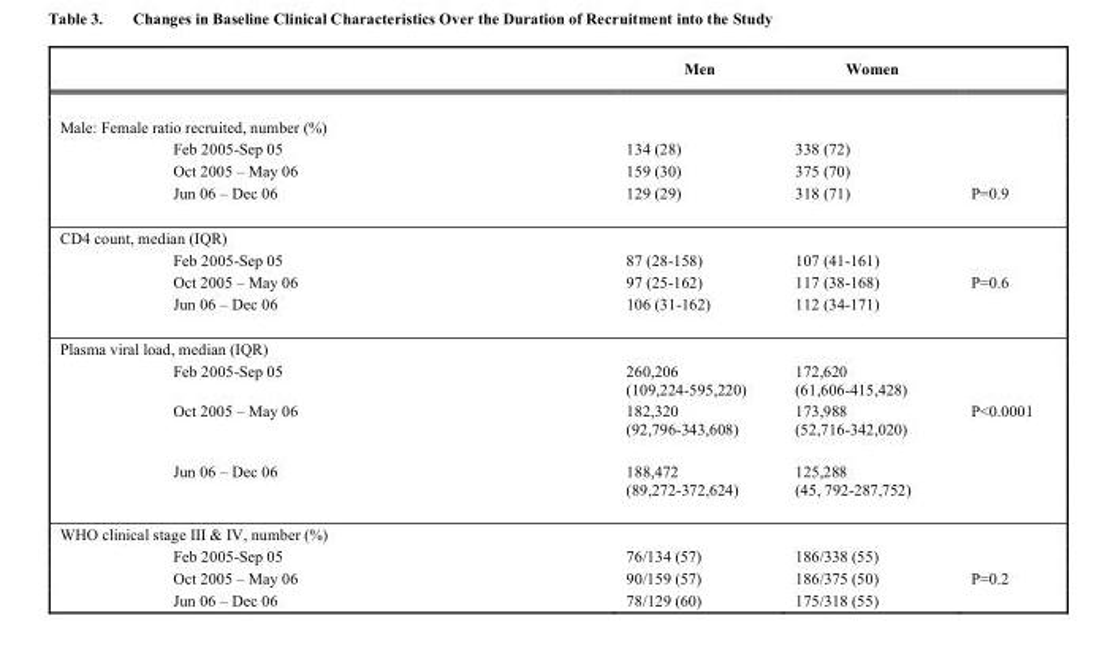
<table><thead><tr><td></td><td>Men</td><td>Women</td><td></td></tr></thead><tbody><tr><td colspan="4">Male: Female ratio recruited, number (%)</td></tr><tr><td>Feb 2005-Sep 05</td><td>134 (28)</td><td>338 (72)</td><td></td></tr><tr><td>Oct 2005 – May 06</td><td>159 (30)</td><td>375 (70)</td><td></td></tr><tr><td>Jun 06 – Dec 06</td><td>129 (29)</td><td>318 (71)</td><td>P=0.9</td></tr><tr><td colspan="4">CD4 count, median (IQR)</td></tr><tr><td>Feb 2005-Sep 05</td><td>87 (28-158)</td><td>107 (41-161)</td><td></td></tr><tr><td>Oct 2005 – May 06</td><td>97 (25-162)</td><td>117 (38-168)</td><td>P=0.6</td></tr><tr><td>Jun 06 – Dec 06</td><td>106 (31-162)</td><td>112 (34-171)</td><td></td></tr><tr><td colspan="4">Plasma viral load, median (IQR)</td></tr><tr><td>Feb 2005-Sep 05</td><td>260,206 (109,224-595,220)</td><td>172,620 (61,606-415,428)</td><td></td></tr><tr><td>Oct 2005 – May 06</td><td>182,320 (92,796-343,608)</td><td>173,988 (52,716-342,020)</td><td>P&lt;0.0001</td></tr><tr><td>Jun 06 – Dec 06</td><td>188,472 (89,272-372,624)</td><td>125,288 (45, 792-287,752)</td><td></td></tr><tr><td colspan="4">WHO clinical stage III &amp; IV, number (%)</td></tr><tr><td>Feb 2005-Sep 05</td><td>76/134 (57)</td><td>186/338 (55)</td><td></td></tr><tr><td>Oct 2005 – May 06</td><td>90/159 (57)</td><td>186/375 (50)</td><td>P=0.2</td></tr><tr><td>Jun 06 – Dec 06</td><td>78/129 (60)</td><td>175/318 (55)</td><td></td></tr></tbody></table>